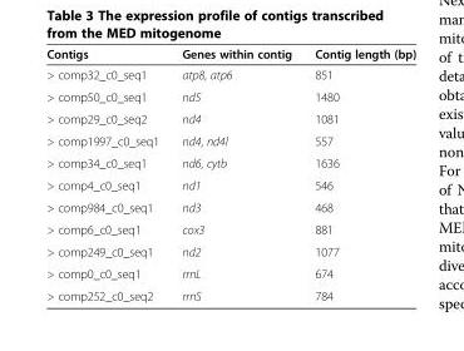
<table><thead><tr><td>Contigs</td><td>Genes within contig</td><td>Contig length (bp)</td></tr></thead><tbody><tr><td>&gt; comp32_c0_seq1</td><td>atp8, atp6</td><td>851</td></tr><tr><td>&gt; comp50_c0_seq1</td><td>nd5</td><td>1480</td></tr><tr><td>&gt; comp29_c0_seq2</td><td>nd4</td><td>1081</td></tr><tr><td>&gt; comp1997_c0_seq1</td><td>nd4, nd4l</td><td>557</td></tr><tr><td>&gt; comp34_c0_seq1</td><td>nd6, cytb</td><td>1636</td></tr><tr><td>&gt; comp4_c0_seq1</td><td>nd1</td><td>546</td></tr><tr><td>&gt; comp984_c0_seq1</td><td>nd3</td><td>468</td></tr><tr><td>&gt; comp6_c0_seq1</td><td>cox3</td><td>881</td></tr><tr><td>&gt; comp249_c0_seq1</td><td>nd2</td><td>1077</td></tr><tr><td>&gt; comp0_c0_seq1</td><td>rrnL</td><td>674</td></tr><tr><td>&gt; comp252_c0_seq2</td><td>rrnS</td><td>784</td></tr></tbody></table>